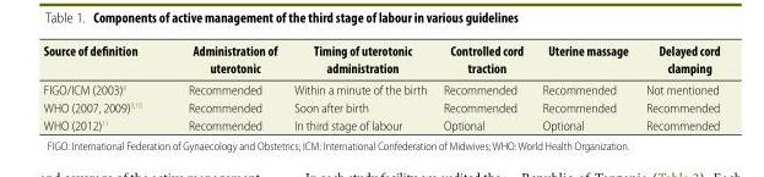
<table><thead><tr><td>Source of definition</td><td>Administration of uterotonic</td><td>Timing of uterotonic administration</td><td>Controlled cord traction</td><td>Uterine massage</td><td>Delayed cord clamping</td></tr></thead><tbody><tr><td>FIGO/ICM (2003)<sup>8</sup></td><td>Recommended</td><td>Within a minute of the birth</td><td>Recommended</td><td>Recommended</td><td>Not mentioned</td></tr><tr><td>WHO (2007, 2009)<sup>9,10</sup></td><td>Recommended</td><td>Soon after birth</td><td>Recommended</td><td>Recommended</td><td>Recommended</td></tr><tr><td>WHO (2012)<sup>11</sup></td><td>Recommended</td><td>In third stage of labour</td><td>Optional</td><td>Optional</td><td>Recommended</td></tr></tbody></table>